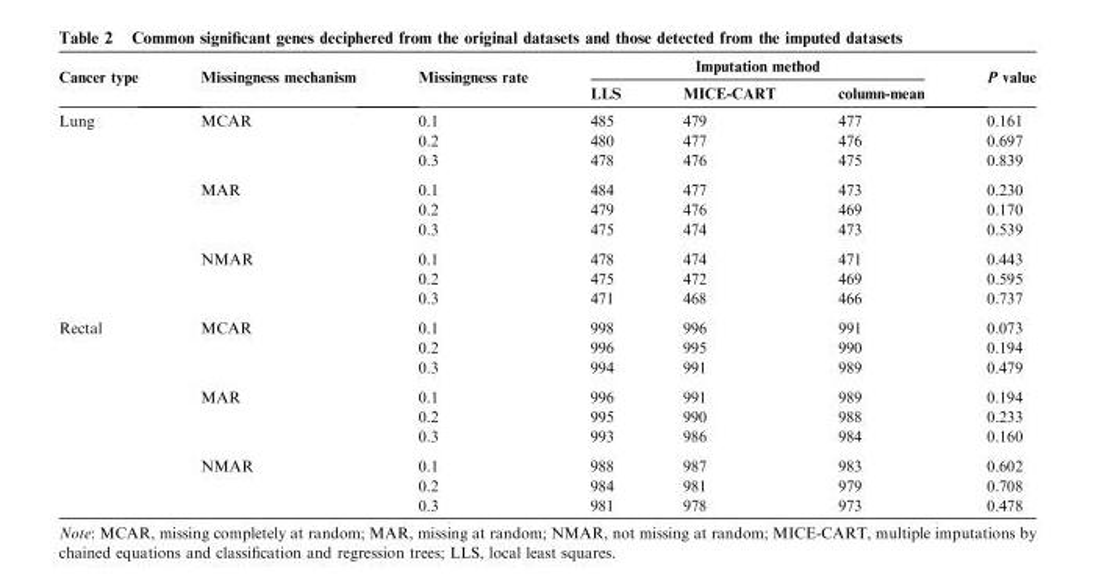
<table><thead><tr><td rowspan="2">Cancer type</td><td rowspan="2">Missingness mechanism</td><td rowspan="2">Missingness rate</td><td colspan="3">Imputation method</td><td rowspan="2">P value</td></tr><tr><td>LLS</td><td>MICE-CART</td><td>column-mean</td></tr></thead><tbody><tr><td rowspan="9">Lung</td><td>MCAR</td><td>0.1</td><td>485</td><td>479</td><td>477</td><td>0.161</td></tr><tr><td></td><td>0.2</td><td>480</td><td>477</td><td>476</td><td>0.697</td></tr><tr><td></td><td>0.3</td><td>478</td><td>476</td><td>475</td><td>0.839</td></tr><tr><td>MAR</td><td>0.1</td><td>484</td><td>477</td><td>473</td><td>0.230</td></tr><tr><td></td><td>0.2</td><td>479</td><td>476</td><td>469</td><td>0.170</td></tr><tr><td></td><td>0.3</td><td>475</td><td>474</td><td>473</td><td>0.539</td></tr><tr><td>NMAR</td><td>0.1</td><td>478</td><td>474</td><td>471</td><td>0.443</td></tr><tr><td></td><td>0.2</td><td>475</td><td>472</td><td>469</td><td>0.595</td></tr><tr><td></td><td>0.3</td><td>471</td><td>468</td><td>466</td><td>0.737</td></tr><tr><td rowspan="9">Rectal</td><td>MCAR</td><td>0.1</td><td>998</td><td>996</td><td>991</td><td>0.073</td></tr><tr><td></td><td>0.2</td><td>996</td><td>995</td><td>990</td><td>0.194</td></tr><tr><td></td><td>0.3</td><td>994</td><td>991</td><td>989</td><td>0.479</td></tr><tr><td>MAR</td><td>0.1</td><td>996</td><td>991</td><td>989</td><td>0.194</td></tr><tr><td></td><td>0.2</td><td>995</td><td>990</td><td>988</td><td>0.233</td></tr><tr><td></td><td>0.3</td><td>993</td><td>986</td><td>984</td><td>0.160</td></tr><tr><td>NMAR</td><td>0.1</td><td>988</td><td>987</td><td>983</td><td>0.602</td></tr><tr><td></td><td>0.2</td><td>984</td><td>981</td><td>979</td><td>0.708</td></tr><tr><td></td><td>0.3</td><td>981</td><td>978</td><td>973</td><td>0.478</td></tr></tbody></table>